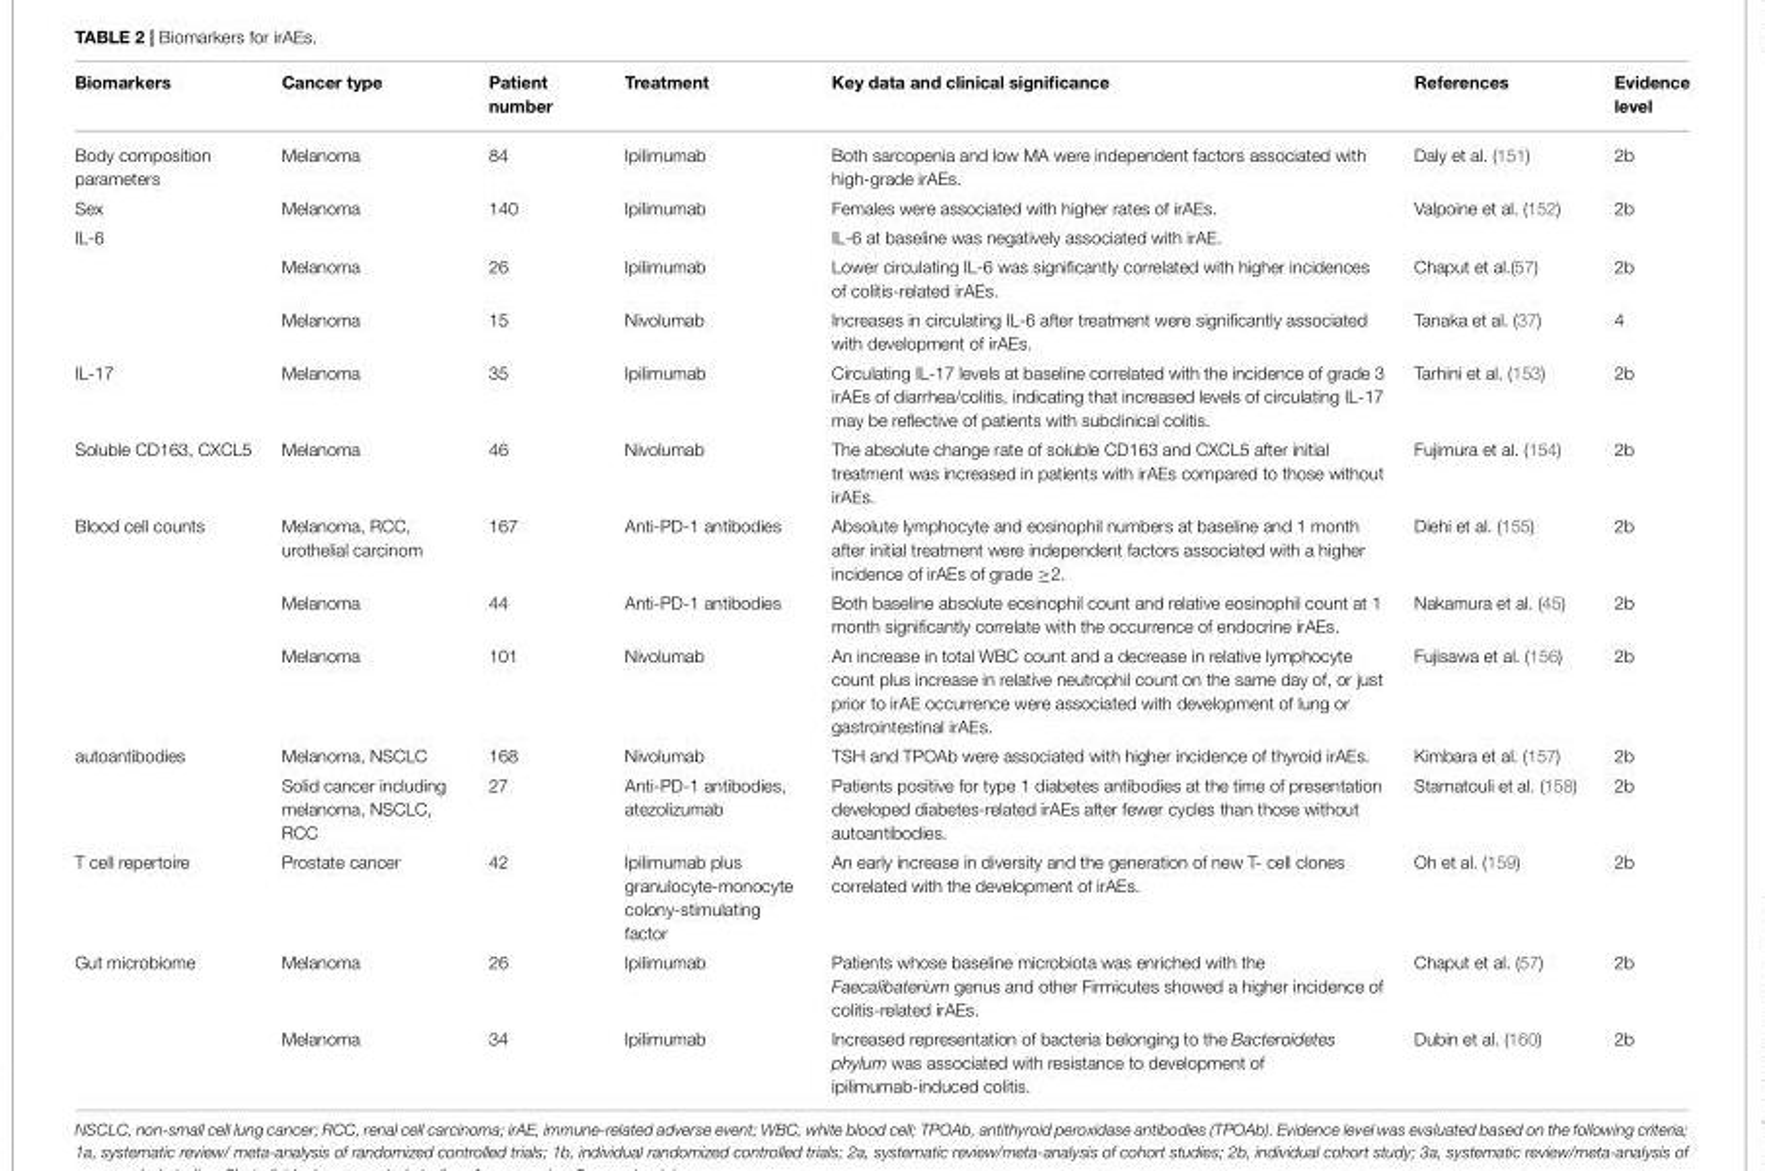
<table><thead><tr><td>Biomarkers</td><td>Cancer type</td><td>Patient number</td><td>Treatment</td><td>Key data and clinical significance</td><td>References</td><td>Evidence level</td></tr></thead><tbody><tr><td>Body composition parameters</td><td>Melanoma</td><td>84</td><td>Ipilimumab</td><td>Both sarcopenia and low MA were independent factors associated with high-grade irAEs.</td><td>Daly et al. (151)</td><td>2b</td></tr><tr><td>Sex</td><td>Melanoma</td><td>140</td><td>Ipilimumab</td><td>Females were associated with higher rates of irAEs.</td><td>Valpoine et al. (152)</td><td>2b</td></tr><tr><td rowspan="3">IL-6</td><td></td><td></td><td></td><td>IL-6 at baseline was negatively associated with irAE.</td><td></td><td></td></tr><tr><td>Melanoma</td><td>26</td><td>Ipilimumab</td><td>Lower circulating IL-6 was significantly correlated with higher incidences of colitis-related irAEs.</td><td>Chaput et al.(57)</td><td>2b</td></tr><tr><td>Melanoma</td><td>15</td><td>Nivolumab</td><td>Increases in circulating IL-6 after treatment were significantly associated with development of irAEs.</td><td>Tanaka et al. (37)</td><td>4</td></tr><tr><td>IL-17</td><td>Melanoma</td><td>35</td><td>Ipilimumab</td><td>Circulating IL-17 levels at baseline correlated with the incidence of grade 3 irAEs of diarrhea/colitis, indicating that increased levels of circulating IL-17 may be reflective of patients with subclinical colitis.</td><td>Tarhini et al. (153)</td><td>2b</td></tr><tr><td>Soluble CD163, CXCL5</td><td>Melanoma</td><td>46</td><td>Nivolumab</td><td>The absolute change rate of soluble CD163 and CXCL5 after initial treatment was increased in patients with irAEs compared to those without irAEs.</td><td>Fujimura et al. (154)</td><td>2b</td></tr><tr><td rowspan="3">Blood cell counts</td><td>Melanoma, RCC, urothelial carcinom</td><td>167</td><td>Anti-PD-1 antibodies</td><td>Absolute lymphocyte and eosinophil numbers at baseline and 1 month after initial treatment were independent factors associated with a higher incidence of irAEs of grade ≥2.</td><td>Diehi et al. (155)</td><td>2b</td></tr><tr><td>Melanoma</td><td>44</td><td>Anti-PD-1 antibodies</td><td>Both baseline absolute eosinophil count and relative eosinophil count at 1 month significantly correlate with the occurrence of endocrine irAEs.</td><td>Nakamura et al. (45)</td><td>2b</td></tr><tr><td>Melanoma</td><td>101</td><td>Nivolumab</td><td>An increase in total WBC count and a decrease in relative lymphocyte count plus increase in relative neutrophil count on the same day of, or just prior to irAE occurrence were associated with development of lung or gastrointestinal irAEs.</td><td>Fujisawa et al. (156)</td><td>2b</td></tr><tr><td rowspan="2">autoantibodies</td><td>Melanoma, NSCLC</td><td>168</td><td>Nivolumab</td><td>TSH and TPOAb were associated with higher incidence of thyroid irAEs.</td><td>Kimbara et al. (157)</td><td>2b</td></tr><tr><td>Solid cancer including melanoma, NSCLC, RCC</td><td>27</td><td>Anti-PD-1 antibodies, atezolizumab</td><td>Patients positive for type 1 diabetes antibodies at the time of presentation developed diabetes-related irAEs after fewer cycles than those without autoantibodies.</td><td>Stamatouli et al. (158)</td><td>2b</td></tr><tr><td>T cell repertoire</td><td>Prostate cancer</td><td>42</td><td>Ipilimumab plus granulocyte-monocyte colony-stimulating factor</td><td>An early increase in diversity and the generation of new T- cell clones correlated with the development of irAEs.</td><td>Oh et al. (159)</td><td>2b</td></tr><tr><td rowspan="2">Gut microbiome</td><td>Melanoma</td><td>26</td><td>Ipilimumab</td><td>Patients whose baseline microbiota was enriched with the Faecalibaterium genus and other Firmicutes showed a higher incidence of colitis-related irAEs.</td><td>Chaput et al. (57)</td><td>2b</td></tr><tr><td>Melanoma</td><td>34</td><td>Ipilimumab</td><td>Increased representation of bacteria belonging to the Bacteroidetes phylum was associated with resistance to development of ipilimumab-induced colitis.</td><td>Dubin et al. (160)</td><td>2b</td></tr></tbody></table>